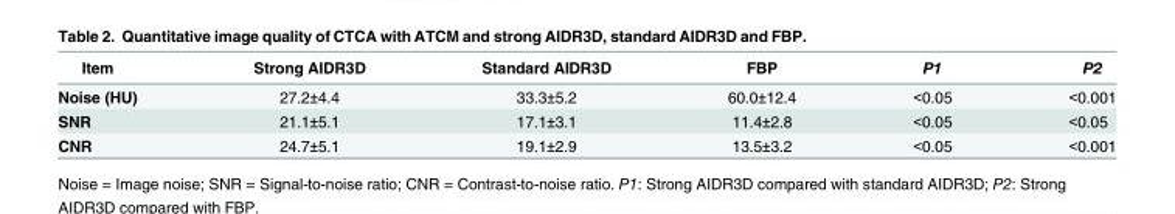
<table><thead><tr><td>Item</td><td>Strong AIDR3D</td><td>Standard AIDR3D</td><td>FBP</td><td>P1</td><td>P2</td></tr></thead><tbody><tr><td>Noise (HU)</td><td>27.2±4.4</td><td>33.3±5.2</td><td>60.0±12.4</td><td>&lt;0.05</td><td>&lt;0.001</td></tr><tr><td>SNR</td><td>21.1±5.1</td><td>17.1±3.1</td><td>11.4±2.8</td><td>&lt;0.05</td><td>&lt;0.05</td></tr><tr><td>CNR</td><td>24.7±5.1</td><td>19.1±2.9</td><td>13.5±3.2</td><td>&lt;0.05</td><td>&lt;0.001</td></tr></tbody></table>